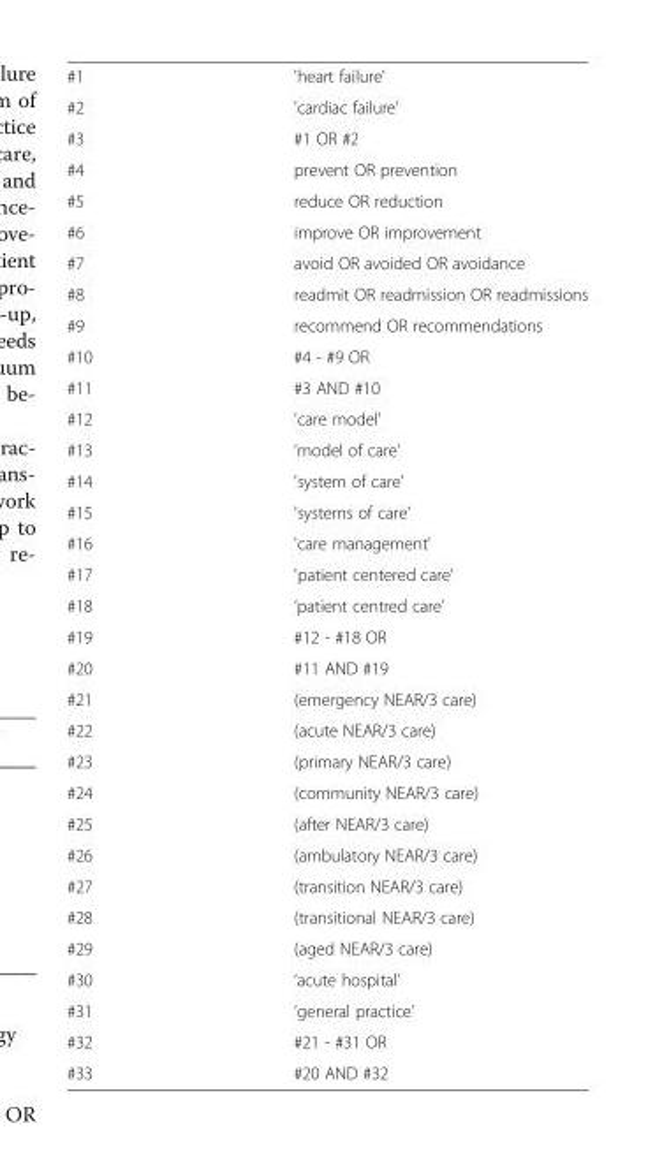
<table><tbody><tr><td>#1</td><td>&#x27;heart failure&#x27;</td></tr><tr><td>#2</td><td>&#x27;cardiac failure&#x27;</td></tr><tr><td>#3</td><td>#1 OR #2</td></tr><tr><td>#4</td><td>prevent OR prevention</td></tr><tr><td>#5</td><td>reduce OR reduction</td></tr><tr><td>#6</td><td>improve OR improvement</td></tr><tr><td>#7</td><td>avoid OR avoided OR avoidance</td></tr><tr><td>#8</td><td>readmit OR readmission OR readmissions</td></tr><tr><td>#9</td><td>recommend OR recommendations</td></tr><tr><td>#10</td><td>#4 - #9 OR</td></tr><tr><td>#11</td><td>#3 AND #10</td></tr><tr><td>#12</td><td>&#x27;care model&#x27;</td></tr><tr><td>#13</td><td>‘model of care’</td></tr><tr><td>#14</td><td>&#x27;system of care&#x27;</td></tr><tr><td>#15</td><td>&#x27;systems of care&#x27;</td></tr><tr><td>#16</td><td>&#x27;care management&#x27;</td></tr><tr><td>#17</td><td>&#x27;patient centered care’</td></tr><tr><td>#18</td><td>‘patient centred care’</td></tr><tr><td>#19</td><td>#12 - #18 OR</td></tr><tr><td>#20</td><td>#11 AND #19</td></tr><tr><td>#21</td><td>(emergency NEAR/3 care)</td></tr><tr><td>#22</td><td>(acute NEAR/3 care)</td></tr><tr><td>#23</td><td>(primary NEAR/3 care)</td></tr><tr><td>#24</td><td>(community NEAR/3 care)</td></tr><tr><td>#25</td><td>(after NEAR/3 care)</td></tr><tr><td>#26</td><td>(ambulatory NEAR/3 care)</td></tr><tr><td>#27</td><td>(transition NEAR/3 care)</td></tr><tr><td>#28</td><td>(transitional NEAR/3 care)</td></tr><tr><td>#29</td><td>(aged NEAR/3 care)</td></tr><tr><td>#30</td><td>‘acute hospital’</td></tr><tr><td>#31</td><td>‘general practice’</td></tr><tr><td>#32</td><td>#21 - #31 OR</td></tr><tr><td>#33</td><td>#20 AND #32</td></tr></tbody></table>